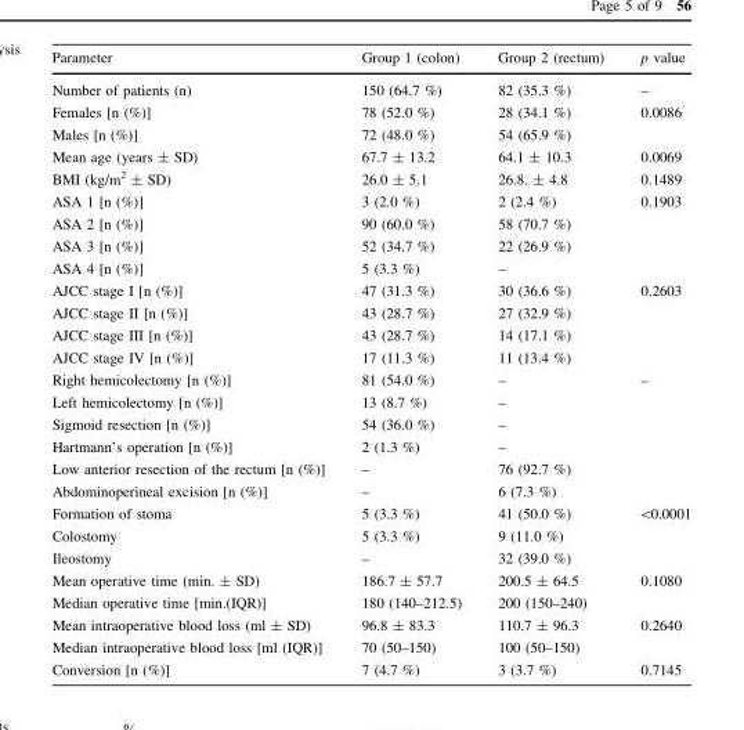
<table><thead><tr><td>Parameter</td><td>Group 1 (colon)</td><td>Group 2 (rectum)</td><td>p value</td></tr></thead><tbody><tr><td>Number of patients (n)</td><td>150 (64.7 %)</td><td>82 (35.3 %)</td><td>–</td></tr><tr><td>Females [n (%)]</td><td>78 (52.0 %)</td><td>28 (34.1 %)</td><td rowspan="2">0.0086</td></tr><tr><td>Males [n (%)]</td><td>72 (48.0 %)</td><td>54 (65.9 %)</td></tr><tr><td>Mean age (years ± SD)</td><td>67.7 ± 13.2</td><td>64.1 ± 10.3</td><td>0.0069</td></tr><tr><td>BMI (kg/m<sup>2</sup> ± SD)</td><td>26.0 ± 5.1</td><td>26.8. ± 4.8</td><td>0.1489</td></tr><tr><td>ASA 1 [n (%)]</td><td>3 (2.0 %)</td><td>2 (2.4 %)</td><td rowspan="4">0.1903</td></tr><tr><td>ASA 2 [n (%)]</td><td>90 (60.0 %)</td><td>58 (70.7 %)</td></tr><tr><td>ASA 3 [n (%)]</td><td>52 (34.7 %)</td><td>22 (26.9 %)</td></tr><tr><td>ASA 4 [n (%)]</td><td>5 (3.3 %)</td><td>–</td></tr><tr><td>AJCC stage I [n (%)]</td><td>47 (31.3 %)</td><td>30 (36.6 %)</td><td rowspan="4">0.2603</td></tr><tr><td>AJCC stage II [n (%)]</td><td>43 (28.7 %)</td><td>27 (32.9 %)</td></tr><tr><td>AJCC stage III [n (%)]</td><td>43 (28.7 %)</td><td>14 (17.1 %)</td></tr><tr><td>AJCC stage IV [n (%)]</td><td>17 (11.3 %)</td><td>11 (13.4 %)</td></tr><tr><td>Right hemicolectomy [n (%)]</td><td>81 (54.0 %)</td><td>–</td><td rowspan="6">–</td></tr><tr><td>Left hemicolectomy [n (%)]</td><td>13 (8.7 %)</td><td>–</td></tr><tr><td>Sigmoid resection [n (%)]</td><td>54 (36.0 %)</td><td>–</td></tr><tr><td>Hartmann’s operation [n (%)]</td><td>2 (1.3 %)</td><td>–</td></tr><tr><td>Low anterior resection of the rectum [n (%)]</td><td>–</td><td>76 (92.7 %)</td></tr><tr><td>Abdominoperineal excision [n (%)]</td><td>–</td><td>6 (7.3 %)</td></tr><tr><td>Formation of stoma</td><td>5 (3.3 %)</td><td>41 (50.0 %)</td><td rowspan="3">&lt;0.0001</td></tr><tr><td>Colostomy</td><td>5 (3.3 %)</td><td>9 (11.0 %)</td></tr><tr><td>Ileostomy</td><td>–</td><td>32 (39.0 %)</td></tr><tr><td>Mean operative time (min. ± SD)</td><td>186.7 ± 57.7</td><td>200.5 ± 64.5</td><td rowspan="2">0.1080</td></tr><tr><td>Median operative time [min.(IQR)]</td><td>180 (140–212.5)</td><td>200 (150–240)</td></tr><tr><td>Mean intraoperative blood loss (ml ± SD)</td><td>96.8 ± 83.3</td><td>110.7 ± 96.3</td><td rowspan="2">0.2640</td></tr><tr><td>Median intraoperative blood loss [ml (IQR)]</td><td>70 (50–150)</td><td>100 (50–150)</td></tr><tr><td>Conversion [n (%)]</td><td>7 (4.7 %)</td><td>3 (3.7 %)</td><td>0.7145</td></tr></tbody></table>